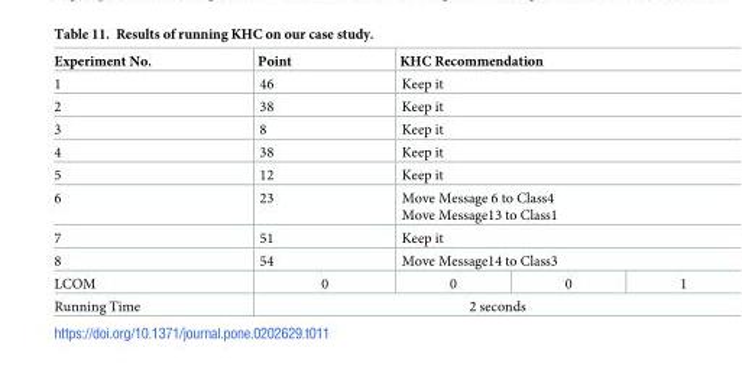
<table><thead><tr><td>Experiment No.</td><td>Point</td><td colspan="3">KHC Recommendation</td></tr></thead><tbody><tr><td>1</td><td>46</td><td colspan="3">Keep it</td></tr><tr><td>2</td><td>38</td><td colspan="3">Keep it</td></tr><tr><td>3</td><td>8</td><td colspan="3">Keep it</td></tr><tr><td>4</td><td>38</td><td colspan="3">Keep it</td></tr><tr><td>5</td><td>12</td><td colspan="3">Keep it</td></tr><tr><td>6</td><td>23</td><td colspan="3">Move Message 6 to Class4 Move Message13 to Class1</td></tr><tr><td>7</td><td>51</td><td colspan="3">Keep it</td></tr><tr><td>8</td><td>54</td><td colspan="3">Move Message14 to Class3</td></tr><tr><td>LCOM</td><td>0</td><td>0</td><td>0</td><td>1</td></tr><tr><td>Running Time</td><td colspan="4">2 seconds</td></tr></tbody></table>